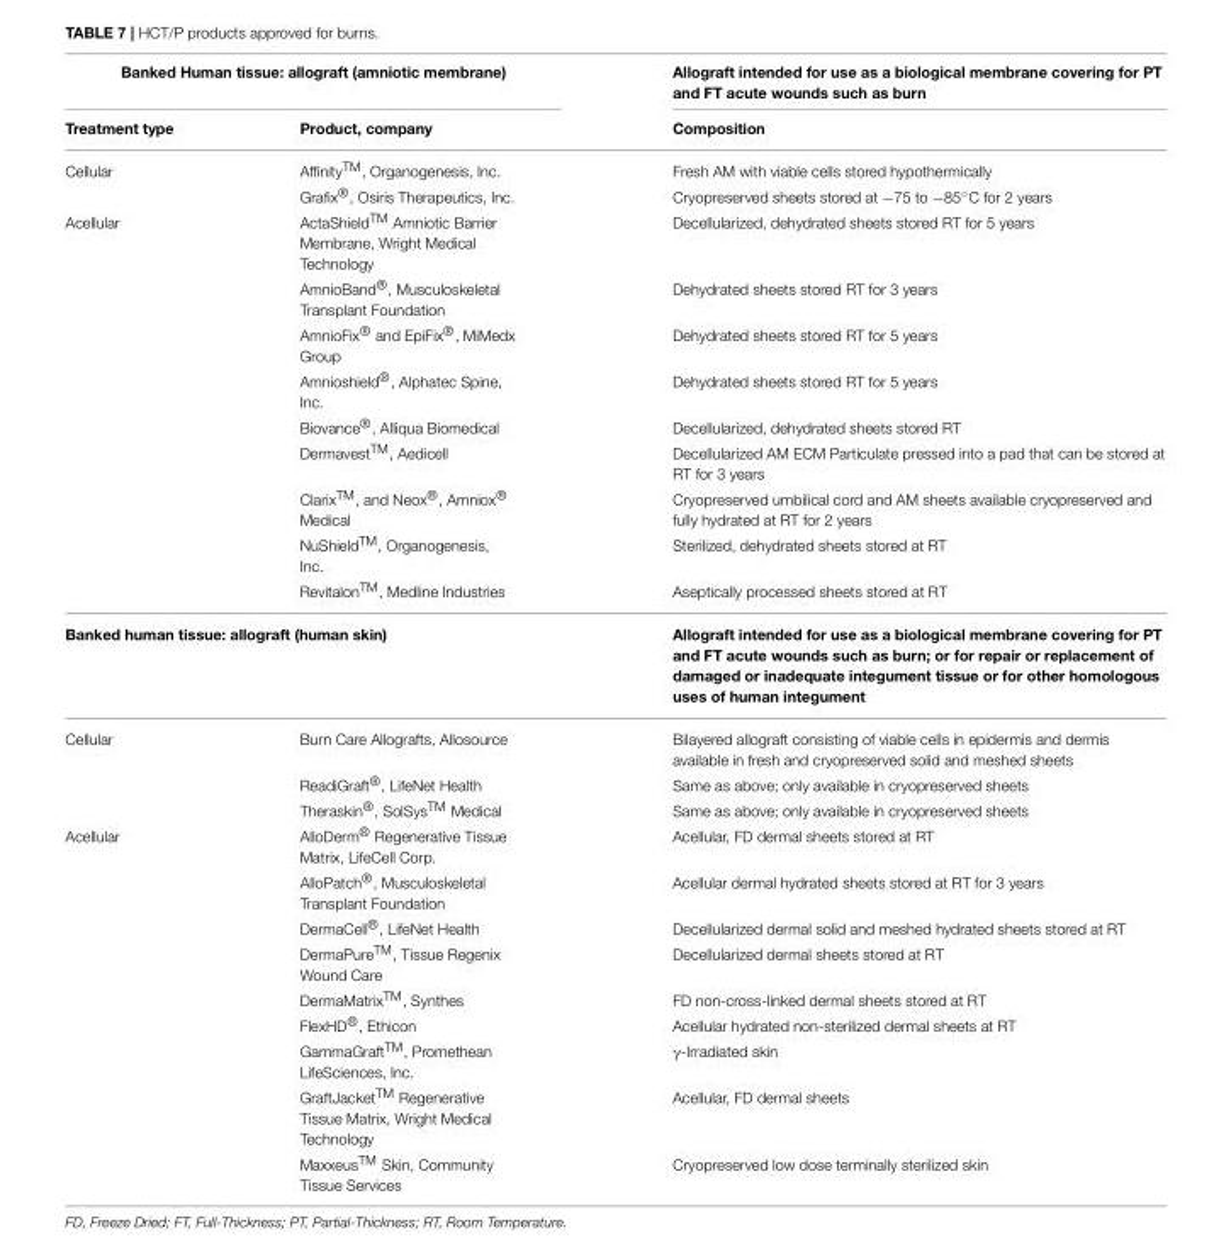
<table><thead><tr><td colspan="2">Banked Human tissue: allograft (amniotic membrane)</td><td rowspan="2">Allograft intended for use as a biological membrane covering for PT and FT acute wounds such as burn Composition</td></tr><tr><td>Treatment type</td><td>Product, company</td></tr></thead><tbody><tr><td rowspan="2">Cellular</td><td>AffinityTM, Organogenesis, Inc.</td><td>Fresh AM with viable cells stored hypothermically</td></tr><tr><td>Grafix®, Osiris Therapeutics, Inc.</td><td>Cryopreserved sheets stored at −75 to −85◦C for 2 years</td></tr><tr><td rowspan="9">Acellular</td><td>ActaShieldTM Amniotic Barrier Membrane, Wright Medical Technology</td><td>Decellularized, dehydrated sheets stored RT for 5 years</td></tr><tr><td>AmnioBand®, Musculoskeletal Transplant Foundation</td><td>Dehydrated sheets stored RT for 3 years</td></tr><tr><td>AmnioFix® and EpiFix®, MiMedx Group</td><td>Dehydrated sheets stored RT for 5 years</td></tr><tr><td>Amnioshield®, Alphatec Spine, Inc.</td><td>Dehydrated sheets stored RT for 5 years</td></tr><tr><td>Biovance®, Alliqua Biomedical</td><td>Decellularized, dehydrated sheets stored RT</td></tr><tr><td>DermavestTM, Aedicell</td><td>Decellularized AM ECM Particulate pressed into a pad that can be stored at RT for 3 years</td></tr><tr><td>ClarixTM, and Neox®, Amniox® Medical</td><td>Cryopreserved umbilical cord and AM sheets available cryopreserved and fully hydrated at RT for 2 years</td></tr><tr><td>NuShieldTM, Organogenesis, Inc.</td><td>Sterilized, dehydrated sheets stored at RT</td></tr><tr><td>RevitalonTM, Medline Industries</td><td>Aseptically processed sheets stored at RT</td></tr><tr><td colspan="2">Banked human tissue: allograft (human skin)</td><td>Allograft intended for use as a biological membrane covering for PT and FT acute wounds such as burn; or for repair or replacement of damaged or inadequate integument tissue or for other homologous uses of human integument</td></tr><tr><td rowspan="3">Cellular</td><td>Burn Care Allografts, Allosource</td><td>Bilayered allograft consisting of viable cells in epidermis and dermis available in fresh and cryopreserved solid and meshed sheets</td></tr><tr><td>ReadiGraft®, LifeNet Health</td><td>Same as above; only available in cryopreserved sheets</td></tr><tr><td>Theraskin®, SolSysTM Medical</td><td>Same as above; only available in cryopreserved sheets</td></tr><tr><td rowspan="9">Acellular</td><td>AlloDerm® Regenerative Tissue Matrix, LifeCell Corp.</td><td>Acellular, FD dermal sheets stored at RT</td></tr><tr><td>AlloPatch®, Musculoskeletal Transplant Foundation</td><td>Acellular dermal hydrated sheets stored at RT for 3 years</td></tr><tr><td>DermaCell®, LifeNet Health</td><td>Decellularized dermal solid and meshed hydrated sheets stored at RT</td></tr><tr><td>DermaPureTM, Tissue Regenix Wound Care</td><td>Decellularized dermal sheets stored at RT</td></tr><tr><td>DermaMatrixTM, Synthes</td><td>FD non-cross-linked dermal sheets stored at RT</td></tr><tr><td>FlexHD®, Ethicon</td><td>Acellular hydrated non-sterilized dermal sheets at RT</td></tr><tr><td>GammaGraftTM, Promethean LifeSciences, Inc.</td><td>γ-Irradiated skin</td></tr><tr><td>GraftJacketTM Regenerative Tissue Matrix, Wright Medical Technology</td><td>Acellular, FD dermal sheets</td></tr><tr><td>MaxxeusTM Skin, Community Tissue Services</td><td>Cryopreserved low dose terminally sterilized skin</td></tr></tbody></table>